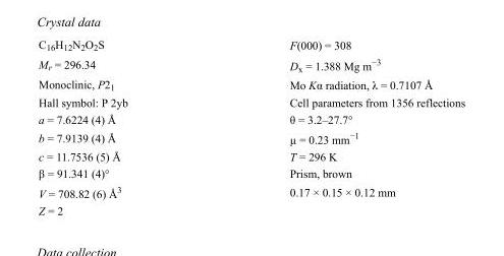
<table><tbody><tr><td>C<sub>16</sub>H<sub>12</sub>N<sub>2</sub>O<sub>2</sub>S</td><td>F(000) = 308</td></tr><tr><td>M<sub>r</sub> = 296.34</td><td>D<sub>x</sub> = 1.388 Mg m<sup>−3</sup></td></tr><tr><td>Monoclinic, P2<sub>1</sub></td><td>Mo Kα radiation, λ = 0.7107 Å</td></tr><tr><td>Hall symbol: P 2yb</td><td>Cell parameters from 1356 reflections</td></tr><tr><td>a = 7.6224 (4) Å</td><td>θ = 3.2–27.7°</td></tr><tr><td>b = 7.9139 (4) Å</td><td>µ = 0.23 mm<sup>−1</sup></td></tr><tr><td>c = 11.7536 (5) Å</td><td>T = 296 K</td></tr><tr><td>β = 91.341 (4)°</td><td>Prism, brown</td></tr><tr><td>V = 708.82 (6) Å<sup>3</sup></td><td>0.17 × 0.15 × 0.12 mm</td></tr><tr><td>Z = 2</td><td></td></tr></tbody></table>